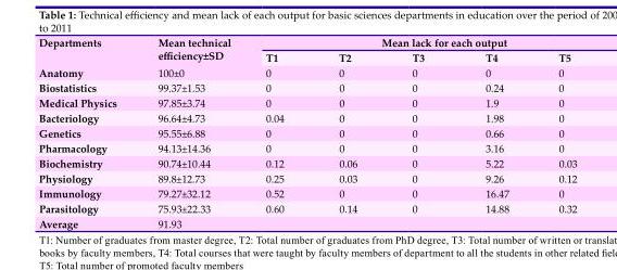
<table><thead><tr><td rowspan="2">Departments</td><td rowspan="2">Mean technical efficiency±SD</td><td colspan="5">Mean lack for each output</td></tr><tr><td>T1</td><td>T2</td><td>T3</td><td>T4</td><td>T5</td></tr></thead><tbody><tr><td>Anatomy</td><td>100±0</td><td>0</td><td>0</td><td>0</td><td>0</td><td>0</td></tr><tr><td>Biostatistics</td><td>99.37±1.53</td><td>0</td><td>0</td><td>0</td><td>0.24</td><td>0</td></tr><tr><td>Medical Physics</td><td>97.85±3.74</td><td>0</td><td>0</td><td>0</td><td>1.9</td><td>0</td></tr><tr><td>Bacteriology</td><td>96.64±4.73</td><td>0.04</td><td>0</td><td>0</td><td>1.98</td><td>0</td></tr><tr><td>Genetics</td><td>95.55±6.88</td><td>0</td><td>0</td><td>0</td><td>0.66</td><td>0</td></tr><tr><td>Pharmacology</td><td>94.13±14.36</td><td>0</td><td>0</td><td>0</td><td>3.16</td><td>0</td></tr><tr><td>Biochemistry</td><td>90.74±10.44</td><td>0.12</td><td>0.06</td><td>0</td><td>5.22</td><td>0.03</td></tr><tr><td>Physiology</td><td>89.8±12.73</td><td>0.25</td><td>0.03</td><td>0</td><td>9.26</td><td>0.12</td></tr><tr><td>Immunology</td><td>79.27±32.12</td><td>0.52</td><td>0</td><td>0</td><td>16.47</td><td>0</td></tr><tr><td>Parasitology</td><td>75.93±22.33</td><td>0.60</td><td>0.14</td><td>0</td><td>14.88</td><td>0.32</td></tr><tr><td>Average</td><td>91.93</td><td colspan="5"></td></tr></tbody></table>